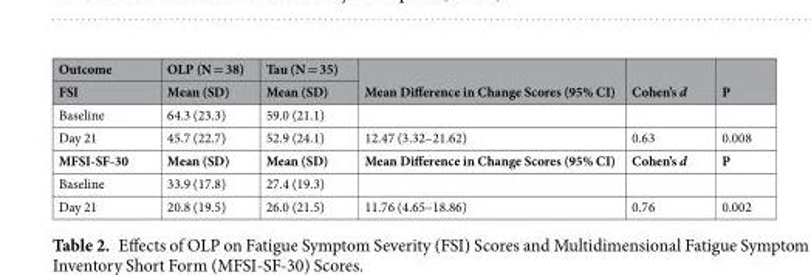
<table><thead><tr><td rowspan="2">Outcome FSI</td><td rowspan="2">OLP (N = 38) Mean (SD)</td><td rowspan="2">Tau (N = 35) Mean (SD)</td><td rowspan="2">Mean Difference in Change Scores (95% CI)</td><td rowspan="2">Cohen’s d</td><td rowspan="2">P</td></tr><tr></tr></thead><tbody><tr><td>Baseline</td><td>64.3 (23.3)</td><td>59.0 (21.1)</td><td></td><td></td><td></td></tr><tr><td>Day 21</td><td>45.7 (22.7)</td><td>52.9 (24.1)</td><td>12.47 (3.32–21.62)</td><td>0.63</td><td>0.008</td></tr><tr><td>MFSI-SF-30</td><td>Mean (SD)</td><td>Mean (SD)</td><td>Mean Difference in Change Scores (95% CI)</td><td>Cohen’s d</td><td>P</td></tr><tr><td>Baseline</td><td>33.9 (17.8)</td><td>27.4 (19.3)</td><td></td><td></td><td></td></tr><tr><td>Day 21</td><td>20.8 (19.5)</td><td>26.0 (21.5)</td><td>11.76 (4.65–18.86)</td><td>0.76</td><td>0.002</td></tr></tbody></table>